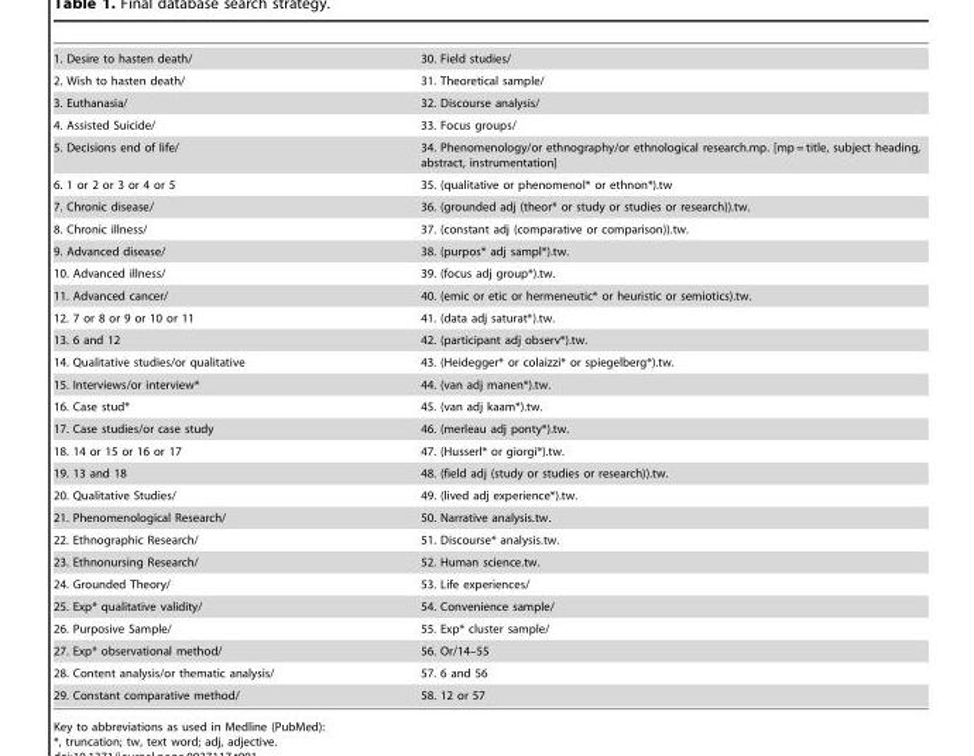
<table><tbody><tr><td>1. Desire to hasten death/</td><td>30. Field studies/</td></tr><tr><td>2. Wish to hasten death/</td><td>31. Theoretical sample/</td></tr><tr><td>3. Euthanasia/</td><td>32. Discourse analysis/</td></tr><tr><td>4. Assisted Suicide/</td><td>33. Focus groups/</td></tr><tr><td>5. Decisions end of life/</td><td>34. Phenomenology/or ethnography/or ethnological research.mp. [mp = title, subject heading, abstract, instrumentation]</td></tr><tr><td>6. 1 or 2 or 3 or 4 or 5</td><td>35. (qualitative or phenomenol* or ethnon*).tw</td></tr><tr><td>7. Chronic disease/</td><td>36. (grounded adj (theor* or study or studies or research)).tw.</td></tr><tr><td>8. Chronic illness/</td><td>37. (constant adj (comparative or comparison)).tw.</td></tr><tr><td>9. Advanced disease/</td><td>38. (purpos* adj sampl*).tw.</td></tr><tr><td>10. Advanced illness/</td><td>39. (focus adj group*).tw.</td></tr><tr><td>11. Advanced cancer/</td><td>40. (emic or etic or hermeneutic* or heuristic or semiotics).tw.</td></tr><tr><td>12. 7 or 8 or 9 or 10 or 11</td><td>41. (data adj saturat*).tw.</td></tr><tr><td>13. 6 and 12</td><td>42. (participant adj observ*).tw.</td></tr><tr><td>14. Qualitative studies/or qualitative</td><td>43. (Heidegger* or colaizzi* or spiegelberg*).tw.</td></tr><tr><td>15. Interviews/or interview*</td><td>44. (van adj manen*).tw.</td></tr><tr><td>16. Case stud*</td><td>45. (van adj kaam*).tw.</td></tr><tr><td>17. Case studies/or case study</td><td>46. (merleau adj ponty*).tw.</td></tr><tr><td>18. 14 or 15 or 16 or 17</td><td>47. (Husserl* or giorgi*).tw.</td></tr><tr><td>19. 13 and 18</td><td>48. (field adj (study or studies or research)).tw.</td></tr><tr><td>20. Qualitative Studies/</td><td>49. (lived adj experience*).tw.</td></tr><tr><td>21. Phenomenological Research/</td><td>50. Narrative analysis.tw.</td></tr><tr><td>22. Ethnographic Research/</td><td>51. Discourse* analysis.tw.</td></tr><tr><td>23. Ethnonursing Research/</td><td>52. Human science.tw.</td></tr><tr><td>24. Grounded Theory/</td><td>53. Life experiences/</td></tr><tr><td>25. Exp* qualitative validity/</td><td>54. Convenience sample/</td></tr><tr><td>26. Purposive Sample/</td><td>55. Exp* cluster sample/</td></tr><tr><td>27. Exp* observational method/</td><td>56. Or/14–55</td></tr><tr><td>28. Content analysis/or thematic analysis/</td><td>57. 6 and 56</td></tr><tr><td>29. Constant comparative method/</td><td>58. 12 or 57</td></tr></tbody></table>